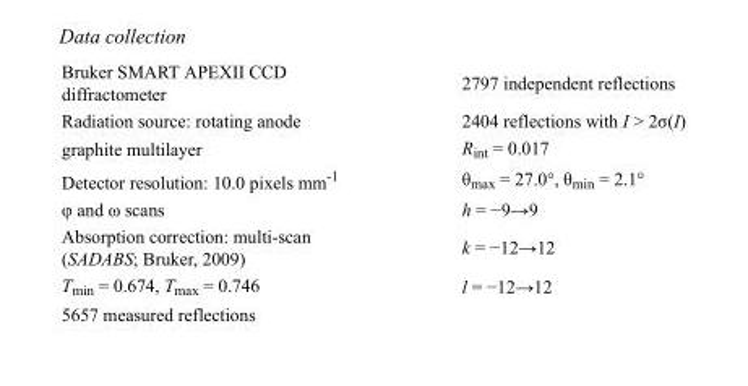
<table><tbody><tr><td>Bruker SMART APEXII CCD diffractometer</td><td>2797 independent reflections</td></tr><tr><td>Radiation source: rotating anode</td><td>2404 reflections with I &gt; 2σ(I)</td></tr><tr><td>graphite multilayer</td><td>R<sub>int</sub> = 0.017</td></tr><tr><td>Detector resolution: 10.0 pixels mm<sup>-1</sup></td><td>θ<sub>max</sub> = 27.0°, θ<sub>min</sub> = 2.1°</td></tr><tr><td>φ and ω scans</td><td>h = −9→9</td></tr><tr><td>Absorption correction: multi-scan (SADABS; Bruker, 2009)</td><td>k = −12→12</td></tr><tr><td>T<sub>min</sub> = 0.674, T<sub>max</sub> = 0.746</td><td>l = −12→12</td></tr><tr><td>5657 measured reflections</td><td></td></tr></tbody></table>